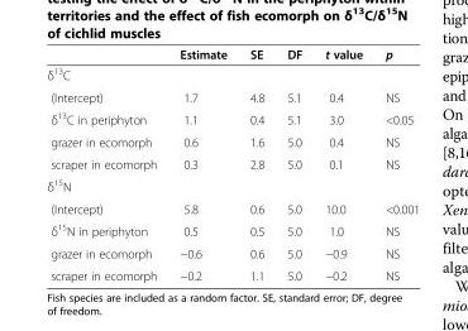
<table><thead><tr><td></td><td>Estimate</td><td>SE</td><td>DF</td><td>t value</td><td>p</td></tr></thead><tbody><tr><td colspan="6">δ<sup>13</sup>C</td></tr><tr><td>(Intercept)</td><td>1.7</td><td>4.8</td><td>5.1</td><td>0.4</td><td>NS</td></tr><tr><td>δ<sup>13</sup>C in periphyton</td><td>1.1</td><td>0.4</td><td>5.1</td><td>3.0</td><td>&lt;0.05</td></tr><tr><td>grazer in ecomorph</td><td>0.6</td><td>1.6</td><td>5.0</td><td>0.4</td><td>NS</td></tr><tr><td>scraper in ecomorph</td><td>0.3</td><td>2.8</td><td>5.0</td><td>0.1</td><td>NS</td></tr><tr><td colspan="6">δ<sup>15</sup>N</td></tr><tr><td>(Intercept)</td><td>5.8</td><td>0.6</td><td>5.0</td><td>10.0</td><td>&lt;0.001</td></tr><tr><td>δ<sup>15</sup>N in periphyton</td><td>0.5</td><td>0.5</td><td>5.0</td><td>1.0</td><td>NS</td></tr><tr><td>grazer in ecomorph</td><td>−0.6</td><td>0.6</td><td>5.0</td><td>−0.9</td><td>NS</td></tr><tr><td>scraper in ecomorph</td><td>−0.2</td><td>1.1</td><td>5.0</td><td>−0.2</td><td>NS</td></tr></tbody></table>